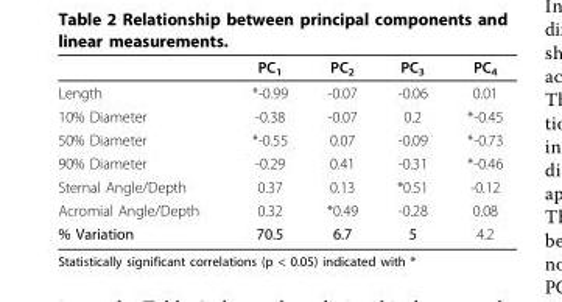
<table><thead><tr><td></td><td>PC<sub>1</sub></td><td>PC<sub>2</sub></td><td>PC<sub>3</sub></td><td>PC<sub>4</sub></td></tr></thead><tbody><tr><td>Length</td><td>*-0.99</td><td>-0.07</td><td>-0.06</td><td>0.01</td></tr><tr><td>10% Diameter</td><td>-0.38</td><td>-0.07</td><td>0.2</td><td>*-0.45</td></tr><tr><td>50% Diameter</td><td>*-0.55</td><td>0.07</td><td>-0.09</td><td>*-0.73</td></tr><tr><td>90% Diameter</td><td>-0.29</td><td>0.41</td><td>-0.31</td><td>*-0.46</td></tr><tr><td>Sternal Angle/Depth</td><td>0.37</td><td>0.13</td><td>*0.51</td><td>-0.12</td></tr><tr><td>Acromial Angle/Depth</td><td>0.32</td><td>*0.49</td><td>-0.28</td><td>0.08</td></tr><tr><td>% Variation</td><td>70.5</td><td>6.7</td><td>5</td><td>4.2</td></tr></tbody></table>